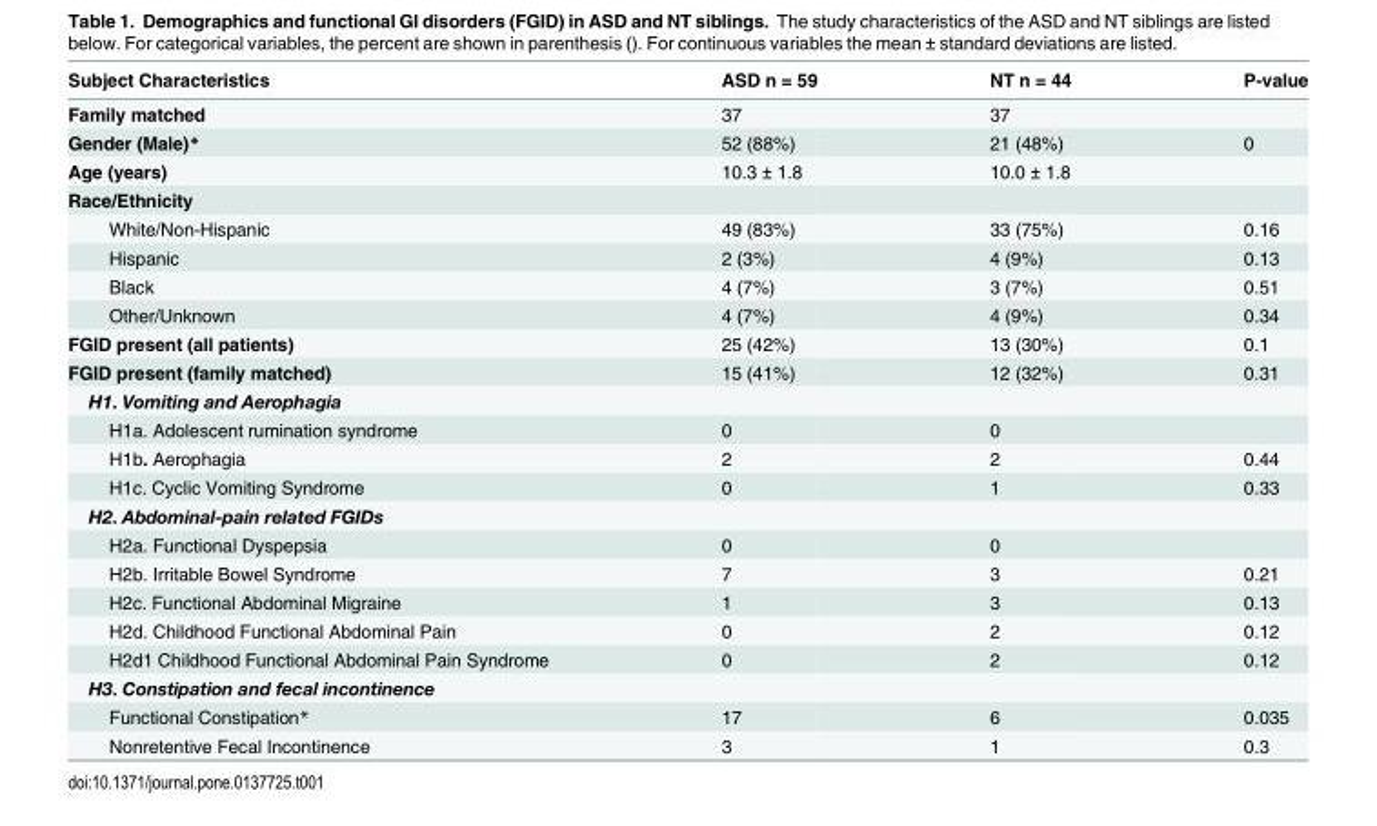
<table><thead><tr><td>Subject Characteristics</td><td>ASD n = 59</td><td>NT n = 44</td><td>P-value</td></tr></thead><tbody><tr><td>Family matched</td><td>37</td><td>37</td><td></td></tr><tr><td>Gender (Male)*</td><td>52 (88%)</td><td>21 (48%)</td><td>0</td></tr><tr><td>Age (years)</td><td>10.3 ± 1.8</td><td>10.0 ± 1.8</td><td></td></tr><tr><td colspan="4">Race/Ethnicity</td></tr><tr><td>White/Non-Hispanic</td><td>49 (83%)</td><td>33 (75%)</td><td>0.16</td></tr><tr><td>Hispanic</td><td>2 (3%)</td><td>4 (9%)</td><td>0.13</td></tr><tr><td>Black</td><td>4 (7%)</td><td>3 (7%)</td><td>0.51</td></tr><tr><td>Other/Unknown</td><td>4 (7%)</td><td>4 (9%)</td><td>0.34</td></tr><tr><td>FGID present (all patients)</td><td>25 (42%)</td><td>13 (30%)</td><td>0.1</td></tr><tr><td>FGID present (family matched)</td><td>15 (41%)</td><td>12 (32%)</td><td>0.31</td></tr><tr><td colspan="4">H1. Vomiting and Aerophagia</td></tr><tr><td>H1a. Adolescent rumination syndrome</td><td>0</td><td>0</td><td></td></tr><tr><td>H1b. Aerophagia</td><td>2</td><td>2</td><td>0.44</td></tr><tr><td>H1c. Cyclic Vomiting Syndrome</td><td>0</td><td>1</td><td>0.33</td></tr><tr><td colspan="4">H2. Abdominal-pain related FGIDs</td></tr><tr><td>H2a. Functional Dyspepsia</td><td>0</td><td>0</td><td></td></tr><tr><td>H2b. Irritable Bowel Syndrome</td><td>7</td><td>3</td><td>0.21</td></tr><tr><td>H2c. Functional Abdominal Migraine</td><td>1</td><td>3</td><td>0.13</td></tr><tr><td>H2d. Childhood Functional Abdominal Pain</td><td>0</td><td>2</td><td>0.12</td></tr><tr><td>H2d1 Childhood Functional Abdominal Pain Syndrome</td><td>0</td><td>2</td><td>0.12</td></tr><tr><td colspan="4">H3. Constipation and fecal incontinence</td></tr><tr><td>Functional Constipation*</td><td>17</td><td>6</td><td>0.035</td></tr><tr><td>Nonretentive Fecal Incontinence</td><td>3</td><td>1</td><td>0.3</td></tr></tbody></table>